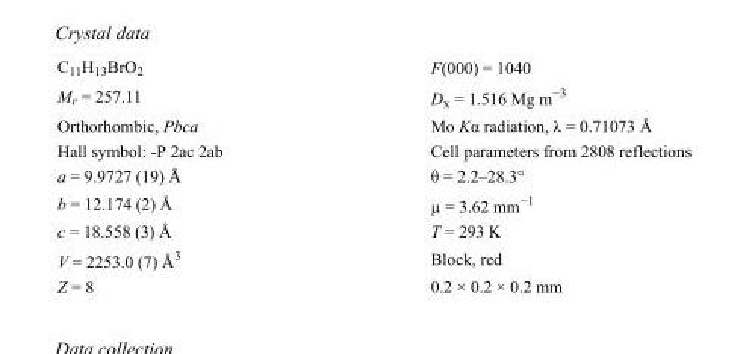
<table><tbody><tr><td>C<sub>11</sub>H<sub>13</sub>BrO<sub>2</sub></td><td>F(000) = 1040</td></tr><tr><td>M<sub>r</sub> = 257.11</td><td>D<sub>x</sub> = 1.516 Mg m<sup>−3</sup></td></tr><tr><td>Orthorhombic, Pbca</td><td>Mo Kα radiation, λ = 0.71073 Å</td></tr><tr><td>Hall symbol: -P 2ac 2ab</td><td>Cell parameters from 2808 reflections</td></tr><tr><td>a = 9.9727 (19) Å</td><td>θ = 2.2–28.3°</td></tr><tr><td>b = 12.174 (2) Å</td><td>µ = 3.62 mm<sup>−1</sup></td></tr><tr><td>c = 18.558 (3) Å</td><td>T = 293 K</td></tr><tr><td>V = 2253.0 (7) Å<sup>3</sup></td><td>Block, red</td></tr><tr><td>Z = 8</td><td>0.2 × 0.2 × 0.2 mm</td></tr></tbody></table>